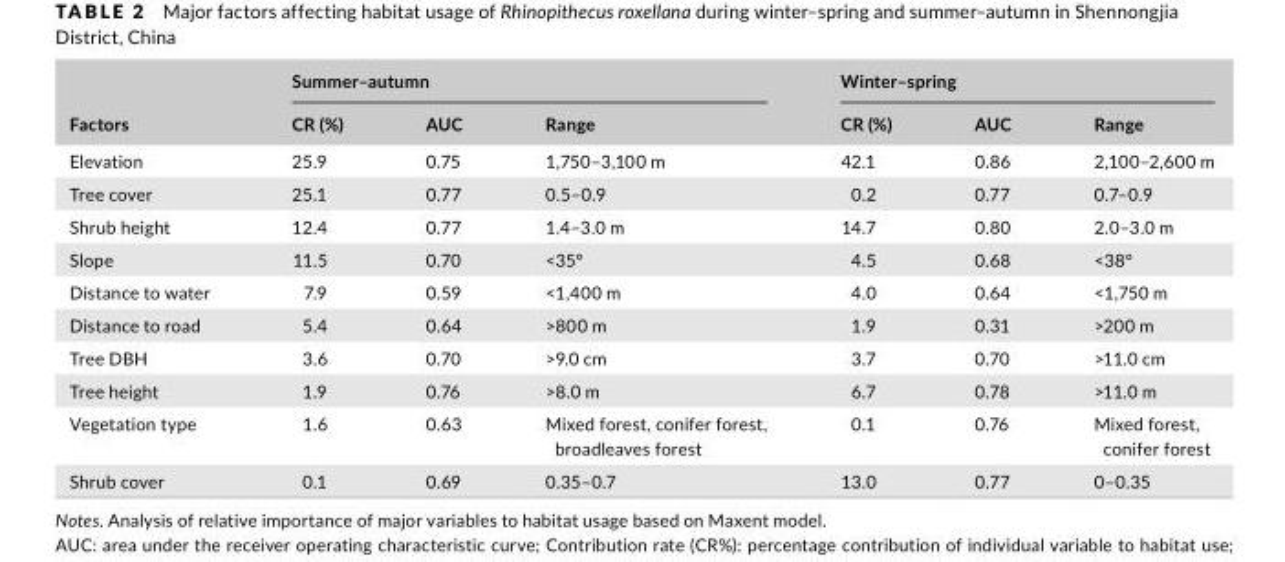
<table><thead><tr><td rowspan="2">Factors</td><td colspan="3">Summer–autumn</td><td colspan="3">Winter–spring</td></tr><tr><td>CR (%)</td><td>AUC</td><td>Range</td><td>CR (%)</td><td>AUC</td><td>Range</td></tr></thead><tbody><tr><td>Elevation</td><td>25.9</td><td>0.75</td><td>1,750–3,100 m</td><td>42.1</td><td>0.86</td><td>2,100–2,600 m</td></tr><tr><td>Tree cover</td><td>25.1</td><td>0.77</td><td>0.5–0.9</td><td>0.2</td><td>0.77</td><td>0.7–0.9</td></tr><tr><td>Shrub height</td><td>12.4</td><td>0.77</td><td>1.4–3.0 m</td><td>14.7</td><td>0.80</td><td>2.0–3.0 m</td></tr><tr><td>Slope</td><td>11.5</td><td>0.70</td><td>&lt;35°</td><td>4.5</td><td>0.68</td><td>&lt;38°</td></tr><tr><td>Distance to water</td><td>7.9</td><td>0.59</td><td>&lt;1,400 m</td><td>4.0</td><td>0.64</td><td>&lt;1,750 m</td></tr><tr><td>Distance to road</td><td>5.4</td><td>0.64</td><td>&gt;800 m</td><td>1.9</td><td>0.31</td><td>&gt;200 m</td></tr><tr><td>Tree DBH</td><td>3.6</td><td>0.70</td><td>&gt;9.0 cm</td><td>3.7</td><td>0.70</td><td>&gt;11.0 cm</td></tr><tr><td>Tree height</td><td>1.9</td><td>0.76</td><td>&gt;8.0 m</td><td>6.7</td><td>0.78</td><td>&gt;11.0 m</td></tr><tr><td>Vegetation type</td><td>1.6</td><td>0.63</td><td>Mixed forest, conifer forest, broadleaves forest</td><td>0.1</td><td>0.76</td><td>Mixed forest, conifer forest</td></tr><tr><td>Shrub cover</td><td>0.1</td><td>0.69</td><td>0.35–0.7</td><td>13.0</td><td>0.77</td><td>0–0.35</td></tr></tbody></table>